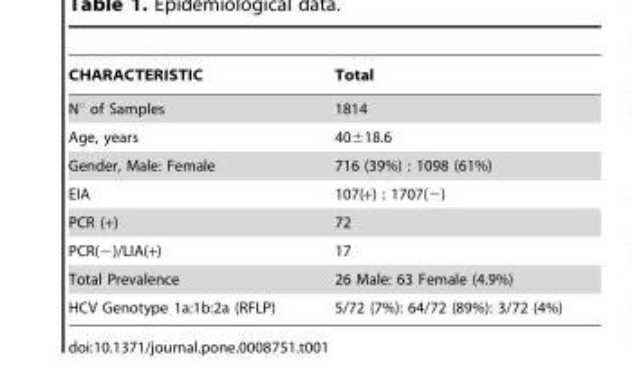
<table><thead><tr><td>CHARACTERISTIC</td><td>Total</td></tr></thead><tbody><tr><td>N° of Samples</td><td>1814</td></tr><tr><td>Age, years</td><td>40±18.6</td></tr><tr><td>Gender, Male: Female</td><td>716 (39%) : 1098 (61%)</td></tr><tr><td>EIA</td><td>107(+) : 1707(−)</td></tr><tr><td>PCR (+)</td><td>72</td></tr><tr><td>PCR(−)/LIA(+)</td><td>17</td></tr><tr><td>Total Prevalence</td><td>26 Male: 63 Female (4.9%)</td></tr><tr><td>HCV Genotype 1a:1b:2a (RFLP)</td><td>5/72 (7%): 64/72 (89%): 3/72 (4%)</td></tr></tbody></table>